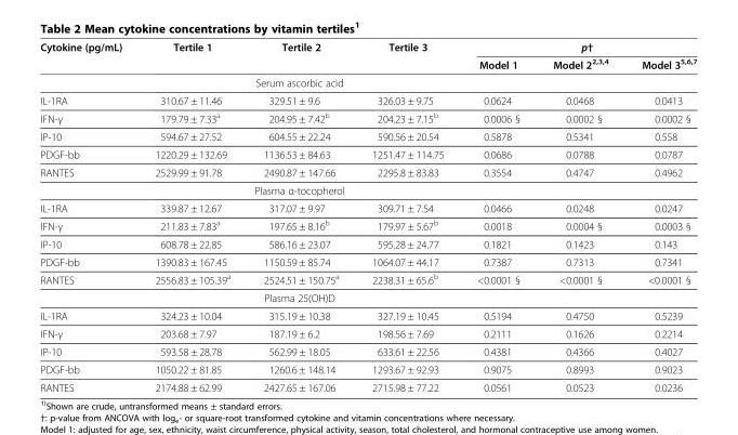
<table><thead><tr><td rowspan="2">Cytokine (pg/mL)</td><td rowspan="2">Tertile 1</td><td rowspan="2">Tertile 2</td><td rowspan="2">Tertile 3</td><td colspan="3">p†</td></tr><tr><td>Model 1</td><td>Model 2<sup>2,3,4</sup></td><td>Model 3<sup>5,6,7</sup></td></tr></thead><tbody><tr><td></td><td colspan="3">Serum ascorbic acid</td><td colspan="3"></td></tr><tr><td>IL-1RA</td><td>310.67 ± 11.46</td><td>329.51 ± 9.6</td><td>326.03 ± 9.75</td><td>0.0624</td><td>0.0468</td><td>0.0413</td></tr><tr><td>IFN-γ</td><td>179.79 ± 7.33<sup>a</sup></td><td>204.95 ± 7.42<sup>b</sup></td><td>204.23 ± 7.15<sup>b</sup></td><td>0.0006 §</td><td>0.0002 §</td><td>0.0002 §</td></tr><tr><td>IP-10</td><td>594.67 ± 27.52</td><td>604.55 ± 22.24</td><td>590.56 ± 20.54</td><td>0.5878</td><td>0.5341</td><td>0.558</td></tr><tr><td>PDGF-bb</td><td>1220.29 ± 132.69</td><td>1136.53 ± 84.63</td><td>1251.47 ± 114.75</td><td>0.0686</td><td>0.0788</td><td>0.0787</td></tr><tr><td rowspan="2">RANTES</td><td>2529.99 ± 91.78</td><td>2490.87 ± 147.66</td><td>2295.8 ± 83.83</td><td>0.3554</td><td>0.4747</td><td>0.4962</td></tr><tr><td colspan="3">Plasma α-tocopherol</td><td colspan="3"></td></tr><tr><td>IL-1RA</td><td>339.87 ± 12.67</td><td>317.07 ± 9.97</td><td>309.71 ± 7.54</td><td>0.0466</td><td>0.0248</td><td>0.0247</td></tr><tr><td>IFN-γ</td><td>211.83 ± 7.83<sup>a</sup></td><td>197.65 ± 8.16<sup>b</sup></td><td>179.97 ± 5.67<sup>b</sup></td><td>0.0018</td><td>0.0004 §</td><td>0.0003 §</td></tr><tr><td>IP-10</td><td>608.78 ± 22.85</td><td>586.16 ± 23.07</td><td>595.28 ± 24.77</td><td>0.1821</td><td>0.1423</td><td>0.143</td></tr><tr><td>PDGF-bb</td><td>1390.83 ± 167.45</td><td>1150.59 ± 85.74</td><td>1064.07 ± 44.17</td><td>0.7387</td><td>0.7313</td><td>0.7341</td></tr><tr><td rowspan="2">RANTES</td><td>2556.83 ± 105.39<sup>a</sup></td><td>2524.51 ± 150.75<sup>a</sup></td><td>2238.31 ± 65.6<sup>b</sup></td><td>&lt;0.0001 §</td><td>&lt;0.0001 §</td><td>&lt;0.0001 §</td></tr><tr><td colspan="3">Plasma 25(OH)D</td><td colspan="3"></td></tr><tr><td>IL-1RA</td><td>324.23 ± 10.04</td><td>315.19 ± 10.38</td><td>327.19 ± 10.45</td><td>0.5194</td><td>0.4750</td><td>0.5239</td></tr><tr><td>IFN-γ</td><td>203.68 ± 7.97</td><td>187.19 ± 6.2</td><td>198.56 ± 7.69</td><td>0.2111</td><td>0.1626</td><td>0.2214</td></tr><tr><td>IP-10</td><td>593.58 ± 28.78</td><td>562.99 ± 18.05</td><td>633.61 ± 22.56</td><td>0.4381</td><td>0.4366</td><td>0.4027</td></tr><tr><td>PDGF-bb</td><td>1050.22 ± 81.85</td><td>1260.6 ± 148.14</td><td>1293.67 ± 92.93</td><td>0.9075</td><td>0.8993</td><td>0.9023</td></tr><tr><td>RANTES</td><td>2174.88 ± 62.99</td><td>2427.65 ± 167.06</td><td>2715.98 ± 77.22</td><td>0.0561</td><td>0.0523</td><td>0.0236</td></tr></tbody></table>